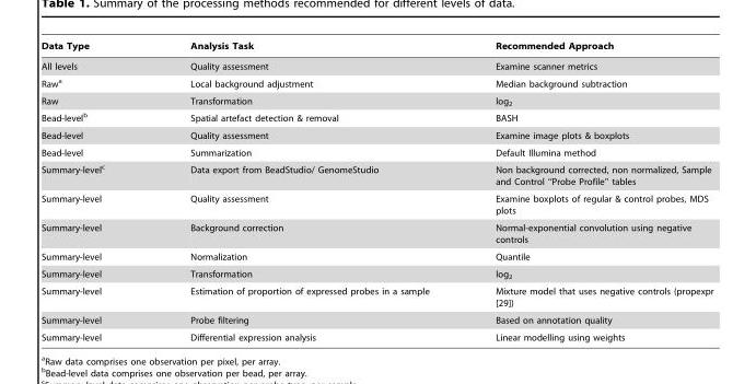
<table><thead><tr><td>Data Type</td><td>Analysis Task</td><td>Recommended Approach</td></tr></thead><tbody><tr><td>All levels</td><td>Quality assessment</td><td>Examine scanner metrics</td></tr><tr><td>Raw<sup>a</sup></td><td>Local background adjustment</td><td>Median background subtraction</td></tr><tr><td>Raw</td><td>Transformation</td><td>log<sub>2</sub></td></tr><tr><td>Bead-level<sup>b</sup></td><td>Spatial artefact detection &amp; removal</td><td>BASH</td></tr><tr><td>Bead-level</td><td>Quality assessment</td><td>Examine image plots &amp; boxplots</td></tr><tr><td>Bead-level</td><td>Summarization</td><td>Default Illumina method</td></tr><tr><td>Summary-level<sup>c</sup></td><td>Data export from BeadStudio/ GenomeStudio</td><td>Non background corrected, non normalized, Sample and Control ‘‘Probe Profile’’ tables</td></tr><tr><td>Summary-level</td><td>Quality assessment</td><td>Examine boxplots of regular &amp; control probes, MDS plots</td></tr><tr><td>Summary-level</td><td>Background correction</td><td>Normal-exponential convolution using negative controls</td></tr><tr><td>Summary-level</td><td>Normalization</td><td>Quantile</td></tr><tr><td>Summary-level</td><td>Transformation</td><td>log<sub>2</sub></td></tr><tr><td>Summary-level</td><td>Estimation of proportion of expressed probes in a sample</td><td>Mixture model that uses negative controls (propexpr [29])</td></tr><tr><td>Summary-level</td><td>Probe filtering</td><td>Based on annotation quality</td></tr><tr><td>Summary-level</td><td>Differential expression analysis</td><td>Linear modelling using weights</td></tr></tbody></table>